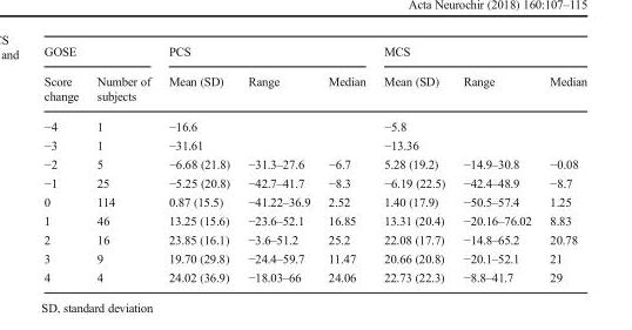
<table><thead><tr><td colspan="2">GOSE</td><td colspan="3">PCS</td><td colspan="3">MCS</td></tr><tr><td>Score change</td><td>Number of subjects</td><td>Mean (SD)</td><td>Range</td><td>Median</td><td>Mean (SD)</td><td>Range</td><td>Median</td></tr></thead><tbody><tr><td>−4</td><td>1</td><td>−16.6</td><td></td><td></td><td>−5.8</td><td></td><td></td></tr><tr><td>−3</td><td>1</td><td>−31.61</td><td></td><td></td><td>−13.36</td><td></td><td></td></tr><tr><td>−2</td><td>5</td><td>−6.68 (21.8)</td><td>−31.3–27.6</td><td>−6.7</td><td>5.28 (19.2)</td><td>−14.9–30.8</td><td>−0.08</td></tr><tr><td>−1</td><td>25</td><td>−5.25 (20.8)</td><td>−42.7–41.7</td><td>−8.3</td><td>−6.19 (22.5)</td><td>−42.4–48.9</td><td>−8.7</td></tr><tr><td>0</td><td>114</td><td>0.87 (15.5)</td><td>−41.22–36.9</td><td>2.52</td><td>1.40 (17.9)</td><td>−50.5–57.4</td><td>1.25</td></tr><tr><td>1</td><td>46</td><td>13.25 (15.6)</td><td>−23.6–52.1</td><td>16.85</td><td>13.31 (20.4)</td><td>−20.16–76.02</td><td>8.83</td></tr><tr><td>2</td><td>16</td><td>23.85 (16.1)</td><td>−3.6–51.2</td><td>25.2</td><td>22.08 (17.7)</td><td>−14.8–65.2</td><td>20.78</td></tr><tr><td>3</td><td>9</td><td>19.70 (29.8)</td><td>−24.4–59.7</td><td>11.47</td><td>20.66 (20.8)</td><td>−20.1–52.1</td><td>21</td></tr><tr><td>4</td><td>4</td><td>24.02 (36.9)</td><td>−18.03–66</td><td>24.06</td><td>22.73 (22.3)</td><td>−8.8–41.7</td><td>29</td></tr></tbody></table>